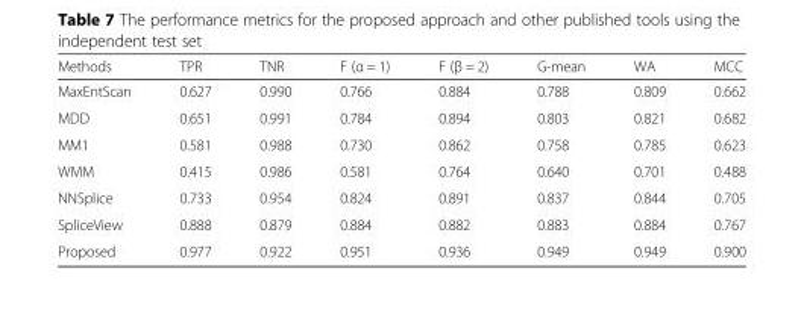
<table><thead><tr><td>Methods</td><td>TPR</td><td>TNR</td><td>F (α = 1)</td><td>F (β = 2)</td><td>G-mean</td><td>WA</td><td>MCC</td></tr></thead><tbody><tr><td>MaxEntScan</td><td>0.627</td><td>0.990</td><td>0.766</td><td>0.884</td><td>0.788</td><td>0.809</td><td>0.662</td></tr><tr><td>MDD</td><td>0.651</td><td>0.991</td><td>0.784</td><td>0.894</td><td>0.803</td><td>0.821</td><td>0.682</td></tr><tr><td>MM1</td><td>0.581</td><td>0.988</td><td>0.730</td><td>0.862</td><td>0.758</td><td>0.785</td><td>0.623</td></tr><tr><td>WMM</td><td>0.415</td><td>0.986</td><td>0.581</td><td>0.764</td><td>0.640</td><td>0.701</td><td>0.488</td></tr><tr><td>NNSplice</td><td>0.733</td><td>0.954</td><td>0.824</td><td>0.891</td><td>0.837</td><td>0.844</td><td>0.705</td></tr><tr><td>SpliceView</td><td>0.888</td><td>0.879</td><td>0.884</td><td>0.882</td><td>0.883</td><td>0.884</td><td>0.767</td></tr><tr><td>Proposed</td><td>0.977</td><td>0.922</td><td>0.951</td><td>0.936</td><td>0.949</td><td>0.949</td><td>0.900</td></tr></tbody></table>